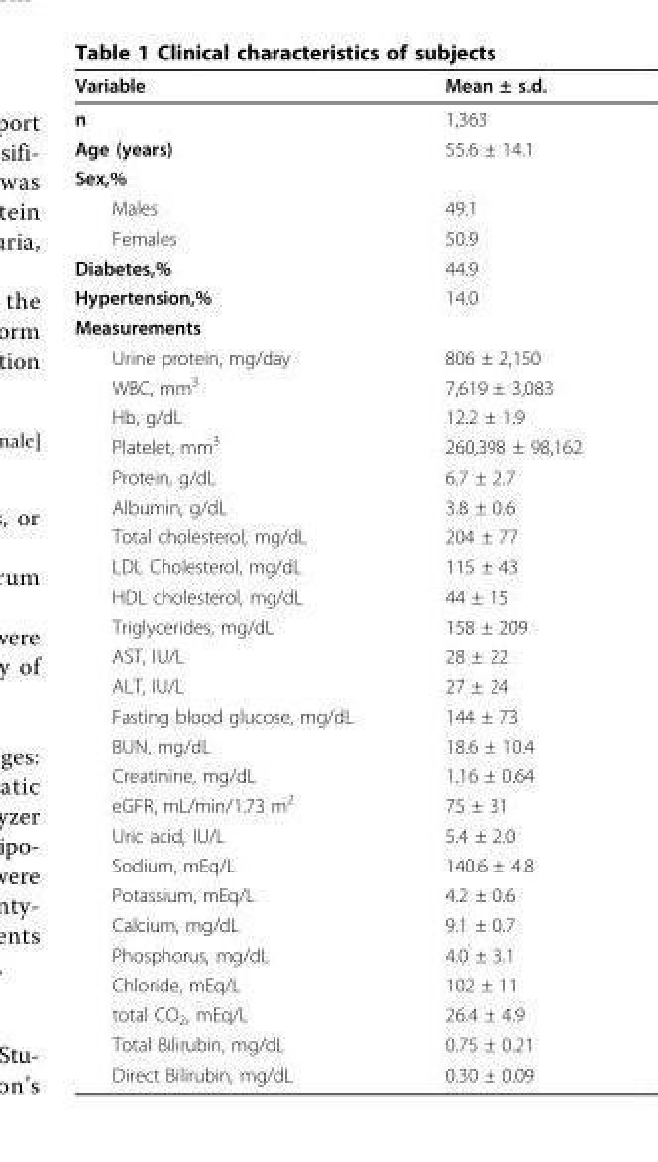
<table><thead><tr><td>Variable</td><td>Mean ± s.d.</td></tr></thead><tbody><tr><td>n</td><td>1,363</td></tr><tr><td>Age (years)</td><td>55.6 ± 14.1</td></tr><tr><td colspan="2">Sex,%</td></tr><tr><td>Males</td><td>49.1</td></tr><tr><td>Females</td><td>50.9</td></tr><tr><td>Diabetes,%</td><td>44.9</td></tr><tr><td>Hypertension,%</td><td>14.0</td></tr><tr><td colspan="2">Measurements</td></tr><tr><td>Urine protein, mg/day</td><td>806 ± 2,150</td></tr><tr><td>WBC, mm<sup>3</sup></td><td>7,619 ± 3,083</td></tr><tr><td>Hb, g/dL</td><td>12.2 ± 1.9</td></tr><tr><td>Platelet, mm<sup>3</sup></td><td>260,398 ± 98,162</td></tr><tr><td>Protein, g/dL</td><td>6.7 ± 2.7</td></tr><tr><td>Albumin, g/dL</td><td>3.8 ± 0.6</td></tr><tr><td>Total cholesterol, mg/dL</td><td>204 ± 77</td></tr><tr><td>LDL Cholesterol, mg/dL</td><td>115 ± 43</td></tr><tr><td>HDL cholesterol, mg/dL</td><td>44 ± 15</td></tr><tr><td>Triglycerides, mg/dL</td><td>158 ± 209</td></tr><tr><td>AST, IU/L</td><td>28 ± 22</td></tr><tr><td>ALT, IU/L</td><td>27 ± 24</td></tr><tr><td>Fasting blood glucose, mg/dL</td><td>144 ± 73</td></tr><tr><td>BUN, mg/dL</td><td>18.6 ± 10.4</td></tr><tr><td>Creatinine, mg/dL</td><td>1.16 ± 0.64</td></tr><tr><td>eGFR, mL/min/1.73 m<sup>2</sup></td><td>75 ± 31</td></tr><tr><td>Uric acid, IU/L</td><td>5.4 ± 2.0</td></tr><tr><td>Sodium, mEq/L</td><td>140.6 ± 4.8</td></tr><tr><td>Potassium, mEq/L</td><td>4.2 ± 0.6</td></tr><tr><td>Calcium, mg/dL</td><td>9.1 ± 0.7</td></tr><tr><td>Phosphorus, mg/dL</td><td>4.0 ± 3.1</td></tr><tr><td>Chloride, mEq/L</td><td>102 ± 11</td></tr><tr><td>total CO<sub>2</sub>, mEq/L</td><td>26.4 ± 4.9</td></tr><tr><td>Total Bilirubin, mg/dL</td><td>0.75 ± 0.21</td></tr><tr><td>Direct Bilirubin, mg/dL</td><td>0.30 ± 0.09</td></tr></tbody></table>